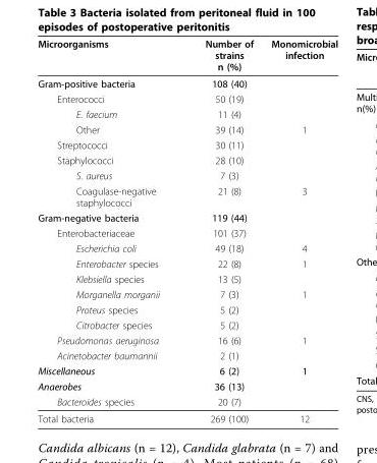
<table><thead><tr><td>Microorganisms</td><td>Number of strains n (%)</td><td>Monomicrobial infection</td></tr></thead><tbody><tr><td>Gram-positive bacteria</td><td>108 (40)</td><td></td></tr><tr><td>Enterococci</td><td>50 (19)</td><td></td></tr><tr><td>E. faecium</td><td>11 (4)</td><td></td></tr><tr><td>Other</td><td>39 (14)</td><td>1</td></tr><tr><td>Streptococci</td><td>30 (11)</td><td></td></tr><tr><td>Staphylococci</td><td>28 (10)</td><td></td></tr><tr><td>S. aureus</td><td>7 (3)</td><td></td></tr><tr><td>Coagulase-negative staphylococci</td><td>21 (8)</td><td>3</td></tr><tr><td>Gram-negative bacteria</td><td>119 (44)</td><td></td></tr><tr><td>Enterobacteriaceae</td><td>101 (37)</td><td></td></tr><tr><td>Escherichia coli</td><td>49 (18)</td><td>4</td></tr><tr><td>Enterobacter species</td><td>22 (8)</td><td>1</td></tr><tr><td>Klebsiella species</td><td>13 (5)</td><td></td></tr><tr><td>Morganella morganii</td><td>7 (3)</td><td>1</td></tr><tr><td>Proteus species</td><td>5 (2)</td><td></td></tr><tr><td>Citrobacter species</td><td>5 (2)</td><td></td></tr><tr><td>Pseudomonas aeruginosa</td><td>16 (6)</td><td>1</td></tr><tr><td>Acinetobacter baumannii</td><td>2 (1)</td><td></td></tr><tr><td>Miscellaneous</td><td>6 (2)</td><td>1</td></tr><tr><td>Anaerobes</td><td>36 (13)</td><td></td></tr><tr><td>Bacteroides species</td><td>20 (7)</td><td></td></tr><tr><td>Total bacteria</td><td>269 (100)</td><td>12</td></tr></tbody></table>